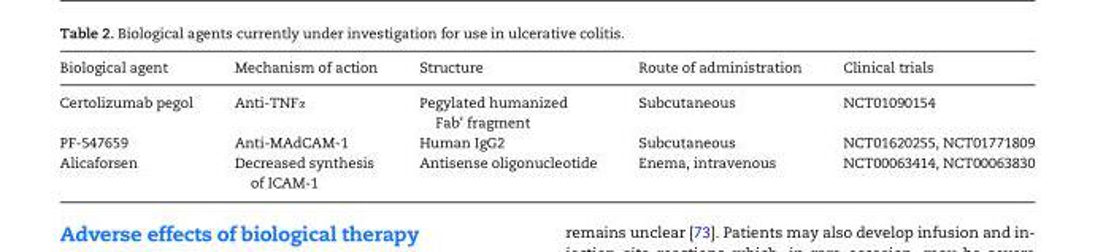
<table><thead><tr><td>Biological agent</td><td>Mechanism of action</td><td>Structure</td><td>Route of administration</td><td>Clinical trials</td></tr></thead><tbody><tr><td>Certolizumab pegol</td><td>Anti-TNFα</td><td>Pegylated humanized Fab’ fragment</td><td>Subcutaneous</td><td>NCT01090154</td></tr><tr><td>PF-547659</td><td>Anti-MAdCAM-1</td><td>Human IgG2</td><td>Subcutaneous</td><td>NCT01620255, NCT01771809</td></tr><tr><td>Alicaforsen</td><td>Decreased synthesis of ICAM-1</td><td>Antisense oligonucleotide</td><td>Enema, intravenous</td><td>NCT00063414, NCT00063830</td></tr></tbody></table>